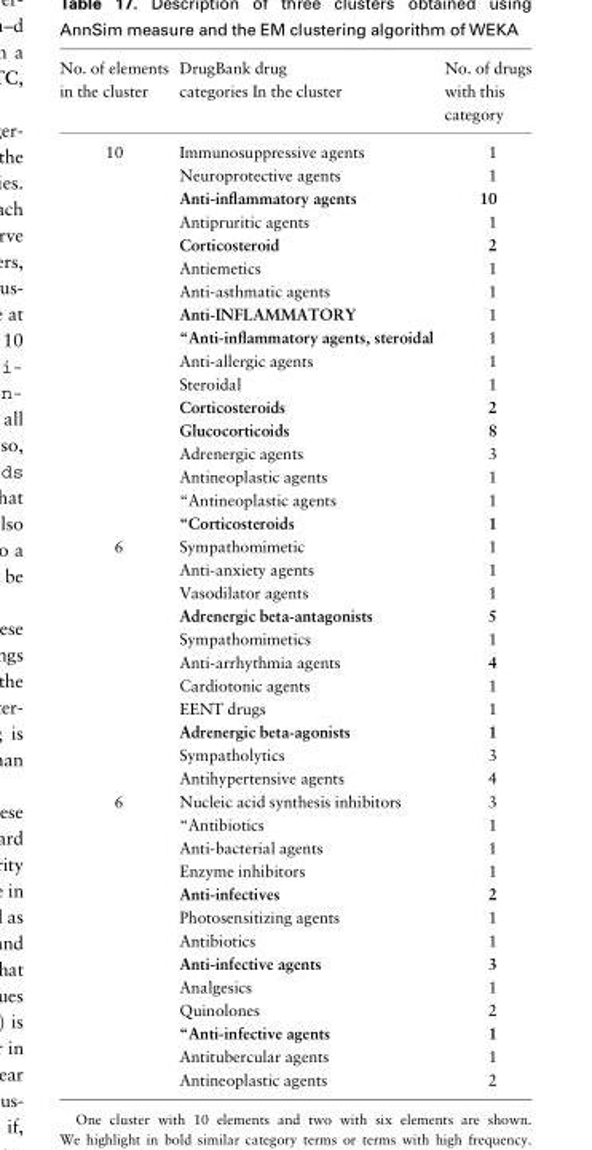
<table><thead><tr><td>No. of elements in the cluster</td><td>DrugBank drug categories In the cluster</td><td>No. of drugs with this category</td></tr></thead><tbody><tr><td rowspan="17">10</td><td>Immunosuppressive agents</td><td>1</td></tr><tr><td>Neuroprotective agents</td><td>1</td></tr><tr><td>Anti-inflammatory agents</td><td>10</td></tr><tr><td>Antipruritic agents</td><td>1</td></tr><tr><td>Corticosteroid</td><td>2</td></tr><tr><td>Antiemetics</td><td>1</td></tr><tr><td>Anti-asthmatic agents</td><td>1</td></tr><tr><td>Anti-INFLAMMATORY</td><td>1</td></tr><tr><td>“Anti-inflammatory agents, steroidal</td><td>1</td></tr><tr><td>Anti-allergic agents</td><td>1</td></tr><tr><td>Steroidal</td><td>1</td></tr><tr><td>Corticosteroids</td><td>2</td></tr><tr><td>Glucocorticoids</td><td>8</td></tr><tr><td>Adrenergic agents</td><td>3</td></tr><tr><td>Antineoplastic agents</td><td>1</td></tr><tr><td>“Antineoplastic agents</td><td>1</td></tr><tr><td>“Corticosteroids</td><td>1</td></tr><tr><td rowspan="11">6</td><td>Sympathomimetic</td><td>1</td></tr><tr><td>Anti-anxiety agents</td><td>1</td></tr><tr><td>Vasodilator agents</td><td>1</td></tr><tr><td>Adrenergic beta-antagonists</td><td>5</td></tr><tr><td>Sympathomimetics</td><td>1</td></tr><tr><td>Anti-arrhythmia agents</td><td>4</td></tr><tr><td>Cardiotonic agents</td><td>1</td></tr><tr><td>EENT drugs</td><td>1</td></tr><tr><td>Adrenergic beta-agonists</td><td>1</td></tr><tr><td>Sympatholytics</td><td>3</td></tr><tr><td>Antihypertensive agents</td><td>4</td></tr><tr><td rowspan="13">6</td><td>Nucleic acid synthesis inhibitors</td><td>3</td></tr><tr><td>“Antibiotics</td><td>1</td></tr><tr><td>Anti-bacterial agents</td><td>1</td></tr><tr><td>Enzyme inhibitors</td><td>1</td></tr><tr><td>Anti-infectives</td><td>2</td></tr><tr><td>Photosensitizing agents</td><td>1</td></tr><tr><td>Antibiotics</td><td>1</td></tr><tr><td>Anti-infective agents</td><td>3</td></tr><tr><td>Analgesics</td><td>1</td></tr><tr><td>Quinolones</td><td>2</td></tr><tr><td>“Anti-infective agents</td><td>1</td></tr><tr><td>Antitubercular agents</td><td>1</td></tr><tr><td>Antineoplastic agents</td><td>2</td></tr></tbody></table>